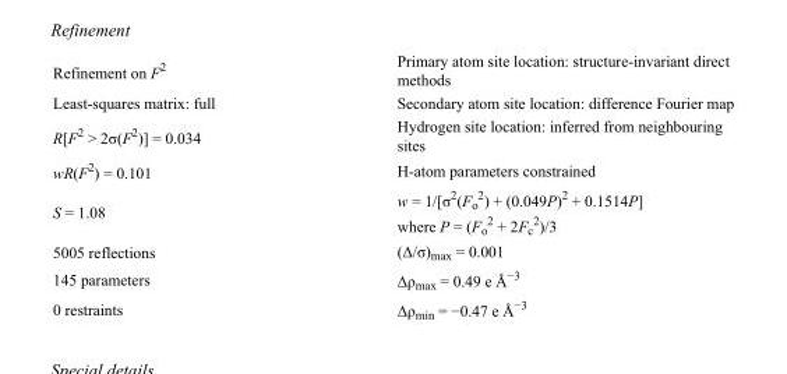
<table><tbody><tr><td>Refinement on F<sup>2</sup></td><td>Primary atom site location: structure-invariant direct methods</td></tr><tr><td>Least-squares matrix: full</td><td>Secondary atom site location: difference Fourier map</td></tr><tr><td>R[F<sup>2</sup> &gt; 2σ(F<sup>2</sup>)] = 0.034</td><td>Hydrogen site location: inferred from neighbouring sites</td></tr><tr><td>wR(F<sup>2</sup>) = 0.101</td><td>H-atom parameters constrained</td></tr><tr><td>S = 1.08</td><td>w = 1/[σ<sup>2</sup>(F<sub>o</sub> <sup>2</sup>) + (0.049P)<sup>2</sup> + 0.1514P] where P = (F<sub>o</sub> <sup>2</sup> + 2F<sub>c</sub> <sup>2</sup>)/3</td></tr><tr><td>5005 reflections</td><td>(Δ/σ)<sub>max</sub> = 0.001</td></tr><tr><td>145 parameters</td><td>Δρ<sub>max</sub> = 0.49 e Å<sup>−3</sup></td></tr><tr><td>0 restraints</td><td>Δρ<sub>min</sub> = −0.47 e Å<sup>−3</sup></td></tr></tbody></table>